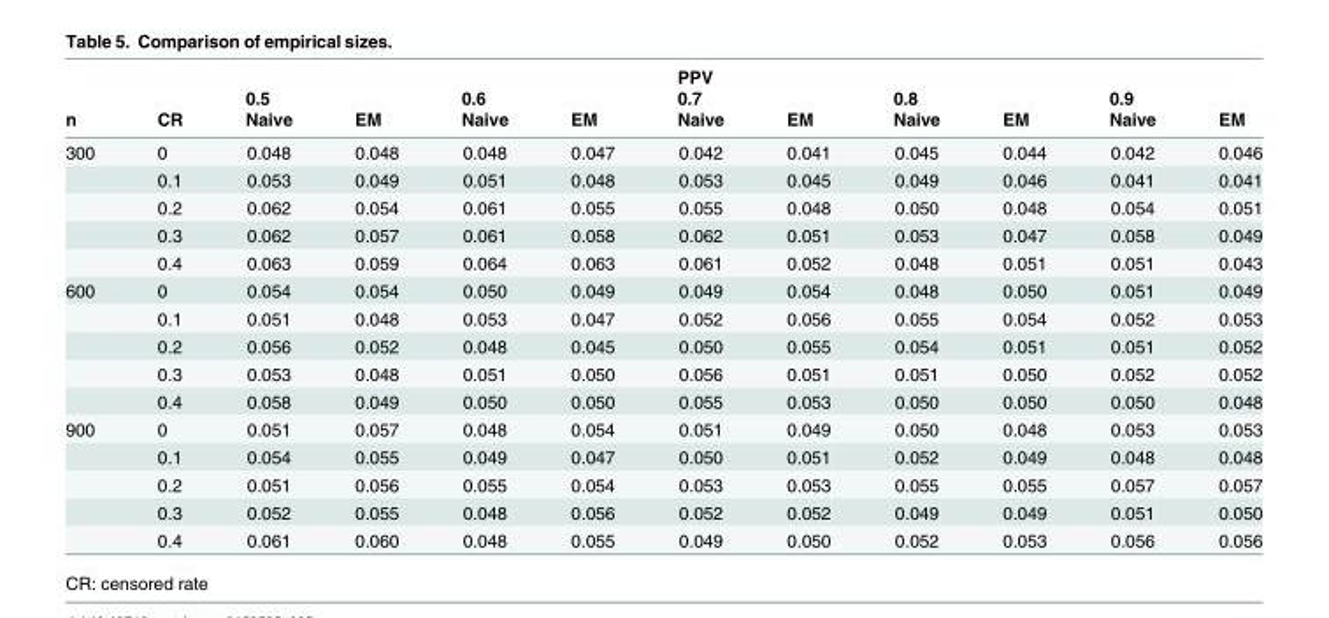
<table><thead><tr><td rowspan="3">n</td><td rowspan="3">CR</td><td rowspan="3">0.5 Naive</td><td rowspan="3">EM</td><td rowspan="3">0.6 Naive</td><td rowspan="3">EM</td><td rowspan="3">PPV 0.7 Naive</td><td rowspan="3">EM</td><td rowspan="3">0.8 Naive</td><td rowspan="3">EM</td><td rowspan="3">0.9 Naive</td><td rowspan="3">EM</td></tr><tr></tr><tr></tr></thead><tbody><tr><td rowspan="5">300</td><td>0</td><td>0.048</td><td>0.048</td><td>0.048</td><td>0.047</td><td>0.042</td><td>0.041</td><td>0.045</td><td>0.044</td><td>0.042</td><td>0.046</td></tr><tr><td>0.1</td><td>0.053</td><td>0.049</td><td>0.051</td><td>0.048</td><td>0.053</td><td>0.045</td><td>0.049</td><td>0.046</td><td>0.041</td><td>0.041</td></tr><tr><td>0.2</td><td>0.062</td><td>0.054</td><td>0.061</td><td>0.055</td><td>0.055</td><td>0.048</td><td>0.050</td><td>0.048</td><td>0.054</td><td>0.051</td></tr><tr><td>0.3</td><td>0.062</td><td>0.057</td><td>0.061</td><td>0.058</td><td>0.062</td><td>0.051</td><td>0.053</td><td>0.047</td><td>0.058</td><td>0.049</td></tr><tr><td>0.4</td><td>0.063</td><td>0.059</td><td>0.064</td><td>0.063</td><td>0.061</td><td>0.052</td><td>0.048</td><td>0.051</td><td>0.051</td><td>0.043</td></tr><tr><td rowspan="5">600</td><td>0</td><td>0.054</td><td>0.054</td><td>0.050</td><td>0.049</td><td>0.049</td><td>0.054</td><td>0.048</td><td>0.050</td><td>0.051</td><td>0.049</td></tr><tr><td>0.1</td><td>0.051</td><td>0.048</td><td>0.053</td><td>0.047</td><td>0.052</td><td>0.056</td><td>0.055</td><td>0.054</td><td>0.052</td><td>0.053</td></tr><tr><td>0.2</td><td>0.056</td><td>0.052</td><td>0.048</td><td>0.045</td><td>0.050</td><td>0.055</td><td>0.054</td><td>0.051</td><td>0.051</td><td>0.052</td></tr><tr><td>0.3</td><td>0.053</td><td>0.048</td><td>0.051</td><td>0.050</td><td>0.056</td><td>0.051</td><td>0.051</td><td>0.050</td><td>0.052</td><td>0.052</td></tr><tr><td>0.4</td><td>0.058</td><td>0.049</td><td>0.050</td><td>0.050</td><td>0.055</td><td>0.053</td><td>0.050</td><td>0.050</td><td>0.050</td><td>0.048</td></tr><tr><td rowspan="5">900</td><td>0</td><td>0.051</td><td>0.057</td><td>0.048</td><td>0.054</td><td>0.051</td><td>0.049</td><td>0.050</td><td>0.048</td><td>0.053</td><td>0.053</td></tr><tr><td>0.1</td><td>0.054</td><td>0.055</td><td>0.049</td><td>0.047</td><td>0.050</td><td>0.051</td><td>0.052</td><td>0.049</td><td>0.048</td><td>0.048</td></tr><tr><td>0.2</td><td>0.051</td><td>0.056</td><td>0.055</td><td>0.054</td><td>0.053</td><td>0.053</td><td>0.055</td><td>0.055</td><td>0.057</td><td>0.057</td></tr><tr><td>0.3</td><td>0.052</td><td>0.055</td><td>0.048</td><td>0.056</td><td>0.052</td><td>0.052</td><td>0.049</td><td>0.049</td><td>0.051</td><td>0.050</td></tr><tr><td>0.4</td><td>0.061</td><td>0.060</td><td>0.048</td><td>0.055</td><td>0.049</td><td>0.050</td><td>0.052</td><td>0.053</td><td>0.056</td><td>0.056</td></tr></tbody></table>